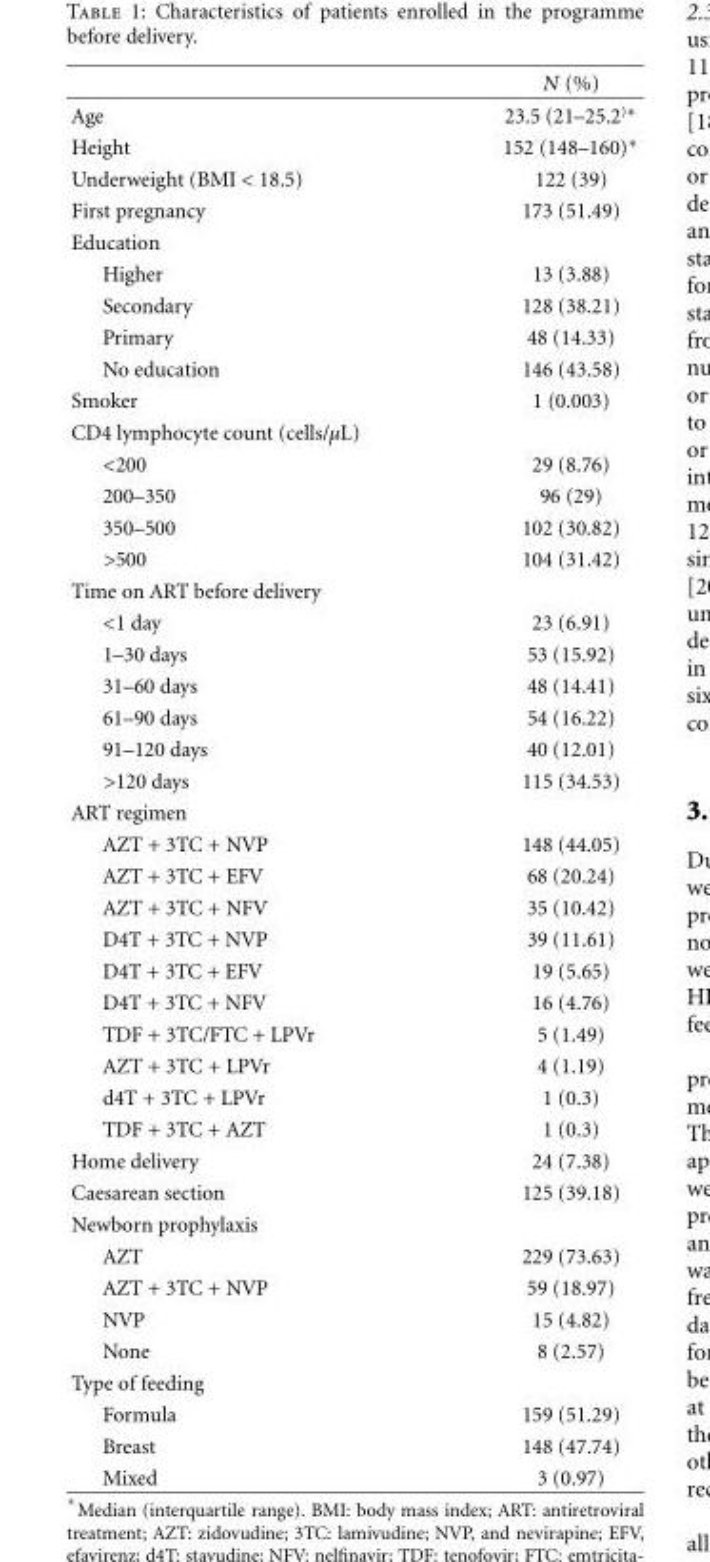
<table><thead><tr><td></td><td>N (%)</td></tr></thead><tbody><tr><td>Age</td><td>23.5 (21–25.2<sup>)∗</sup></td></tr><tr><td>Height</td><td>152 (148–160)∗</td></tr><tr><td>Underweight (BMI &lt; 18.5)</td><td>122 (39)</td></tr><tr><td>First pregnancy</td><td>173 (51.49)</td></tr><tr><td colspan="2">Education</td></tr><tr><td>Higher</td><td>13 (3.88)</td></tr><tr><td>Secondary</td><td>128 (38.21)</td></tr><tr><td>Primary</td><td>48 (14.33)</td></tr><tr><td>No education</td><td>146 (43.58)</td></tr><tr><td>Smoker</td><td>1 (0.003)</td></tr><tr><td colspan="2">CD4 lymphocyte count (cells/µL)</td></tr><tr><td>&lt;200</td><td>29 (8.76)</td></tr><tr><td>200–350</td><td>96 (29)</td></tr><tr><td>350–500</td><td>102 (30.82)</td></tr><tr><td>&gt;500</td><td>104 (31.42)</td></tr><tr><td colspan="2">Time on ART before delivery</td></tr><tr><td>&lt;1 day</td><td>23 (6.91)</td></tr><tr><td>1–30 days</td><td>53 (15.92)</td></tr><tr><td>31–60 days</td><td>48 (14.41)</td></tr><tr><td>61–90 days</td><td>54 (16.22)</td></tr><tr><td>91–120 days</td><td>40 (12.01)</td></tr><tr><td>&gt;120 days</td><td>115 (34.53)</td></tr><tr><td colspan="2">ART regimen</td></tr><tr><td>AZT + 3TC + NVP</td><td>148 (44.05)</td></tr><tr><td>AZT + 3TC + EFV</td><td>68 (20.24)</td></tr><tr><td>AZT + 3TC + NFV</td><td>35 (10.42)</td></tr><tr><td>D4T + 3TC + NVP</td><td>39 (11.61)</td></tr><tr><td>D4T + 3TC + EFV</td><td>19 (5.65)</td></tr><tr><td>D4T + 3TC + NFV</td><td>16 (4.76)</td></tr><tr><td>TDF + 3TC/FTC + LPVr</td><td>5 (1.49)</td></tr><tr><td>AZT + 3TC + LPVr</td><td>4 (1.19)</td></tr><tr><td>d4T + 3TC + LPVr</td><td>1 (0.3)</td></tr><tr><td>TDF + 3TC + AZT</td><td>1 (0.3)</td></tr><tr><td>Home delivery</td><td>24 (7.38)</td></tr><tr><td>Caesarean section</td><td>125 (39.18)</td></tr><tr><td colspan="2">Newborn prophylaxis</td></tr><tr><td>AZT</td><td>229 (73.63)</td></tr><tr><td>AZT + 3TC + NVP</td><td>59 (18.97)</td></tr><tr><td>NVP</td><td>15 (4.82)</td></tr><tr><td>None</td><td>8 (2.57)</td></tr><tr><td colspan="2">Type of feeding</td></tr><tr><td>Formula</td><td>159 (51.29)</td></tr><tr><td>Breast</td><td>148 (47.74)</td></tr><tr><td>Mixed</td><td>3 (0.97)</td></tr></tbody></table>